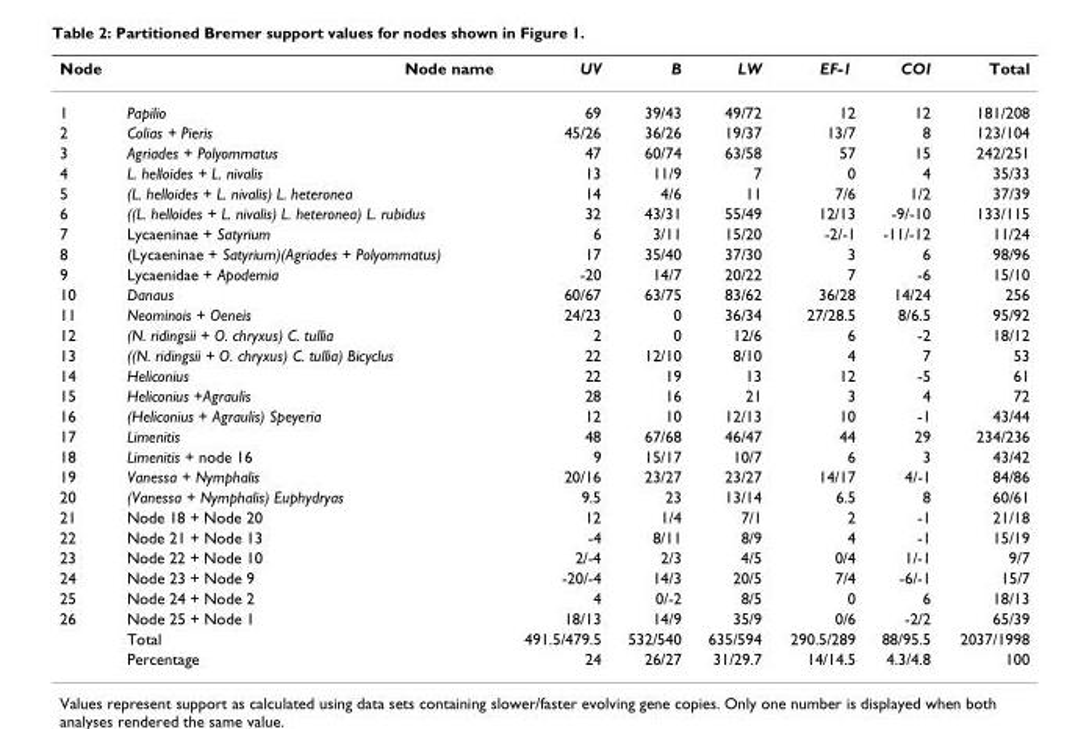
<table><thead><tr><td>Node</td><td>Node name</td><td>UV</td><td>B</td><td>LW</td><td>EF-1</td><td>COI</td><td>Total</td></tr></thead><tbody><tr><td>1</td><td>Papilio</td><td>69</td><td>39/43</td><td>49/72</td><td>12</td><td>12</td><td>181/208</td></tr><tr><td>2</td><td>Colias + Pieris</td><td>45/26</td><td>36/26</td><td>19/37</td><td>13/7</td><td>8</td><td>123/104</td></tr><tr><td>3</td><td>Agriades + Polyommatus</td><td>47</td><td>60/74</td><td>63/58</td><td>57</td><td>15</td><td>242/251</td></tr><tr><td>4</td><td>L. helloides + L. nivalis</td><td>13</td><td>11/9</td><td>7</td><td>0</td><td>4</td><td>35/33</td></tr><tr><td>5</td><td>(L. helloides + L. nivalis) L. heteronea</td><td>14</td><td>4/6</td><td>11</td><td>7/6</td><td>1/2</td><td>37/39</td></tr><tr><td>6</td><td>((L. helloides + L. nivalis) L. heteronea) L. rubidus</td><td>32</td><td>43/31</td><td>55/49</td><td>12/13</td><td>-9/-10</td><td>133/115</td></tr><tr><td>7</td><td>Lycaeninae + Satyrium</td><td>6</td><td>3/11</td><td>15/20</td><td>-2/-1</td><td>-11/-12</td><td>11/24</td></tr><tr><td>8</td><td>(Lycaeninae + Satyrium)(Agriades + Polyommatus)</td><td>17</td><td>35/40</td><td>37/30</td><td>3</td><td>6</td><td>98/96</td></tr><tr><td>9</td><td>Lycaenidae + Apodemia</td><td>-20</td><td>14/7</td><td>20/22</td><td>7</td><td>-6</td><td>15/10</td></tr><tr><td>10</td><td>Danaus</td><td>60/67</td><td>63/75</td><td>83/62</td><td>36/28</td><td>14/24</td><td>256</td></tr><tr><td>11</td><td>Neominois + Oeneis</td><td>24/23</td><td>0</td><td>36/34</td><td>27/28.5</td><td>8/6.5</td><td>95/92</td></tr><tr><td>12</td><td>(N. ridingsii + O. chryxus) C. tullia</td><td>2</td><td>0</td><td>12/6</td><td>6</td><td>-2</td><td>18/12</td></tr><tr><td>13</td><td>((N. ridingsii + O. chryxus) C. tullia) Bicyclus</td><td>22</td><td>12/10</td><td>8/10</td><td>4</td><td>7</td><td>53</td></tr><tr><td>14</td><td>Heliconius</td><td>22</td><td>19</td><td>13</td><td>12</td><td>-5</td><td>61</td></tr><tr><td>15</td><td>Heliconius +Agraulis</td><td>28</td><td>16</td><td>21</td><td>3</td><td>4</td><td>72</td></tr><tr><td>16</td><td>(Heliconius + Agraulis) Speyeria</td><td>12</td><td>10</td><td>12/13</td><td>10</td><td>-1</td><td>43/44</td></tr><tr><td>17</td><td>Limenitis</td><td>48</td><td>67/68</td><td>46/47</td><td>44</td><td>29</td><td>234/236</td></tr><tr><td>18</td><td>Limenitis + node 16</td><td>9</td><td>15/17</td><td>10/7</td><td>6</td><td>3</td><td>43/42</td></tr><tr><td>19</td><td>Vanessa + Nymphalis</td><td>20/16</td><td>23/27</td><td>23/27</td><td>14/17</td><td>4/-1</td><td>84/86</td></tr><tr><td>20</td><td>(Vanessa + Nymphalis) Euphydryas</td><td>9.5</td><td>23</td><td>13/14</td><td>6.5</td><td>8</td><td>60/61</td></tr><tr><td>21</td><td>Node 18 + Node 20</td><td>12</td><td>1/4</td><td>7/1</td><td>2</td><td>-1</td><td>21/18</td></tr><tr><td>22</td><td>Node 21 + Node 13</td><td>-4</td><td>8/11</td><td>8/9</td><td>4</td><td>-1</td><td>15/19</td></tr><tr><td>23</td><td>Node 22 + Node 10</td><td>2/-4</td><td>2/3</td><td>4/5</td><td>0/4</td><td>1/-1</td><td>9/7</td></tr><tr><td>24</td><td>Node 23 + Node 9</td><td>-20/-4</td><td>14/3</td><td>20/5</td><td>7/4</td><td>-6/-1</td><td>15/7</td></tr><tr><td>25</td><td>Node 24 + Node 2</td><td>4</td><td>0/-2</td><td>8/5</td><td>0</td><td>6</td><td>18/13</td></tr><tr><td rowspan="3">26</td><td>Node 25 + Node 1</td><td>18/13</td><td>14/9</td><td>35/9</td><td>0/6</td><td>-2/2</td><td>65/39</td></tr><tr><td>Total</td><td>491.5/479.5</td><td>532/540</td><td>635/594</td><td>290.5/289</td><td>88/95.5</td><td>2037/1998</td></tr><tr><td>Percentage</td><td>24</td><td>26/27</td><td>31/29.7</td><td>14/14.5</td><td>4.3/4.8</td><td>100</td></tr></tbody></table>